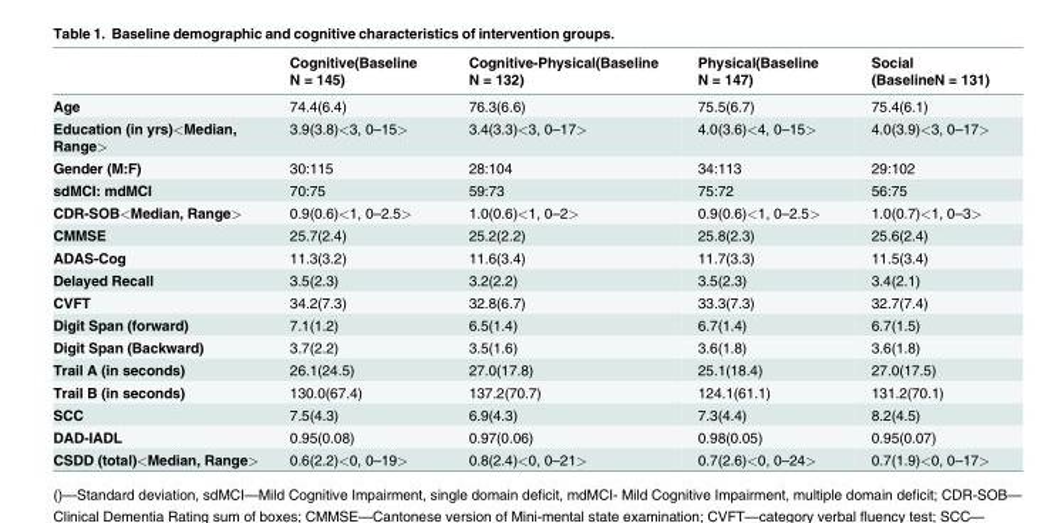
<table><thead><tr><td></td><td>Cognitive(Baseline N = 145)</td><td>Cognitive-Physical(Baseline N = 132)</td><td>Physical(Baseline N = 147)</td><td>Social (BaselineN = 131)</td></tr></thead><tbody><tr><td>Age</td><td>74.4(6.4)</td><td>76.3(6.6)</td><td>75.5(6.7)</td><td>75.4(6.1)</td></tr><tr><td>Education (in yrs)&lt;Median, Range&gt;</td><td>3.9(3.8)&lt;3, 0–15&gt;</td><td>3.4(3.3)&lt;3, 0–17&gt;</td><td>4.0(3.6)&lt;4, 0–15&gt;</td><td>4.0(3.9)&lt;3, 0–17&gt;</td></tr><tr><td>Gender (M:F)</td><td>30:115</td><td>28:104</td><td>34:113</td><td>29:102</td></tr><tr><td>sdMCI: mdMCI</td><td>70:75</td><td>59:73</td><td>75:72</td><td>56:75</td></tr><tr><td>CDR-SOB&lt;Median, Range&gt;</td><td>0.9(0.6)&lt;1, 0–2.5&gt;</td><td>1.0(0.6)&lt;1, 0–2&gt;</td><td>0.9(0.6)&lt;1, 0–2.5&gt;</td><td>1.0(0.7)&lt;1, 0–3&gt;</td></tr><tr><td>CMMSE</td><td>25.7(2.4)</td><td>25.2(2.2)</td><td>25.8(2.3)</td><td>25.6(2.4)</td></tr><tr><td>ADAS-Cog</td><td>11.3(3.2)</td><td>11.6(3.4)</td><td>11.7(3.3)</td><td>11.5(3.4)</td></tr><tr><td>Delayed Recall</td><td>3.5(2.3)</td><td>3.2(2.2)</td><td>3.5(2.3)</td><td>3.4(2.1)</td></tr><tr><td>CVFT</td><td>34.2(7.3)</td><td>32.8(6.7)</td><td>33.3(7.3)</td><td>32.7(7.4)</td></tr><tr><td>Digit Span (forward)</td><td>7.1(1.2)</td><td>6.5(1.4)</td><td>6.7(1.4)</td><td>6.7(1.5)</td></tr><tr><td>Digit Span (Backward)</td><td>3.7(2.2)</td><td>3.5(1.6)</td><td>3.6(1.8)</td><td>3.6(1.8)</td></tr><tr><td>Trail A (in seconds)</td><td>26.1(24.5)</td><td>27.0(17.8)</td><td>25.1(18.4)</td><td>27.0(17.5)</td></tr><tr><td>Trail B (in seconds)</td><td>130.0(67.4)</td><td>137.2(70.7)</td><td>124.1(61.1)</td><td>131.2(70.1)</td></tr><tr><td>SCC</td><td>7.5(4.3)</td><td>6.9(4.3)</td><td>7.3(4.4)</td><td>8.2(4.5)</td></tr><tr><td>DAD-IADL</td><td>0.95(0.08)</td><td>0.97(0.06)</td><td>0.98(0.05)</td><td>0.95(0.07)</td></tr><tr><td>CSDD (total)&lt;Median, Range&gt;</td><td>0.6(2.2)&lt;0, 0–19&gt;</td><td>0.8(2.4)&lt;0, 0–21&gt;</td><td>0.7(2.6)&lt;0, 0–24&gt;</td><td>0.7(1.9)&lt;0, 0–17&gt;</td></tr></tbody></table>